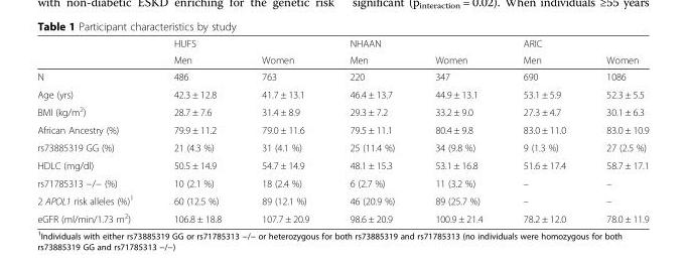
<table><thead><tr><td rowspan="2"></td><td colspan="2">HUFS</td><td colspan="2">NHAAN</td><td colspan="2">ARIC</td></tr><tr><td>Men</td><td>Women</td><td>Men</td><td>Women</td><td>Men</td><td>Women</td></tr></thead><tbody><tr><td>N</td><td>486</td><td>763</td><td>220</td><td>347</td><td>690</td><td>1086</td></tr><tr><td>Age (yrs)</td><td>42.3 ± 12.8</td><td>41.7 ± 13.1</td><td>46.4 ± 13.7</td><td>44.9 ± 13.1</td><td>53.1 ± 5.9</td><td>52.3 ± 5.5</td></tr><tr><td>BMI (kg/m<sup>2</sup>)</td><td>28.7 ± 7.6</td><td>31.4 ± 8.9</td><td>29.3 ± 7.2</td><td>33.2 ± 9.0</td><td>27.3 ± 4.7</td><td>30.1 ± 6.3</td></tr><tr><td>African Ancestry (%)</td><td>79.9 ± 11.2</td><td>79.0 ± 11.6</td><td>79.5 ± 11.1</td><td>80.4 ± 9.8</td><td>83.0 ± 11.0</td><td>83.0 ± 10.9</td></tr><tr><td>rs73885319 GG (%)</td><td>21 (4.3 %)</td><td>31 (4.1 %)</td><td>25 (11.4 %)</td><td>34 (9.8 %)</td><td>9 (1.3 %)</td><td>27 (2.5 %)</td></tr><tr><td>HDLC (mg/dl)</td><td>50.5 ± 14.9</td><td>54.7 ± 14.9</td><td>48.1 ± 15.3</td><td>53.1 ± 16.8</td><td>51.6 ± 17.4</td><td>58.7 ± 17.1</td></tr><tr><td>rs71785313 −/− (%)</td><td>10 (2.1 %)</td><td>18 (2.4 %)</td><td>6 (2.7 %)</td><td>11 (3.2 %)</td><td>–</td><td>–</td></tr><tr><td>2 APOL1 risk alleles (%)<sup>1</sup></td><td>60 (12.5 %)</td><td>89 (12.1 %)</td><td>46 (20.9 %)</td><td>89 (25.7 %)</td><td>–</td><td>–</td></tr><tr><td>eGFR (ml/min/1.73 m<sup>2</sup>)</td><td>106.8 ± 18.8</td><td>107.7 ± 20.9</td><td>98.6 ± 20.9</td><td>100.9 ± 21.4</td><td>78.2 ± 12.0</td><td>78.0 ± 11.9</td></tr></tbody></table>